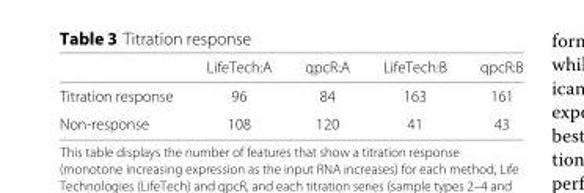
<table><thead><tr><td></td><td>LifeTech:A</td><td>qpcR:A</td><td>LifeTech:B</td><td>qpcR:B</td></tr></thead><tbody><tr><td>Titration response</td><td>96</td><td>84</td><td>163</td><td>161</td></tr><tr><td>Non-response</td><td>108</td><td>120</td><td>41</td><td>43</td></tr></tbody></table>